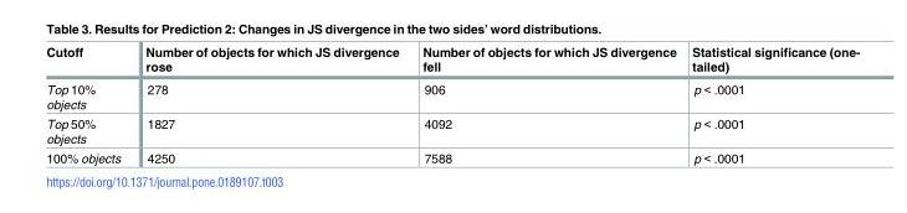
<table><thead><tr><td>Cutoff</td><td>Number of objects for which JS divergence rose</td><td>Number of objects for which JS divergence fell</td><td>Statistical significance (one- tailed)</td></tr></thead><tbody><tr><td>Top 10% objects</td><td>278</td><td>906</td><td>p &lt; .0001</td></tr><tr><td>Top 50% objects</td><td>1827</td><td>4092</td><td>p &lt; .0001</td></tr><tr><td>100% objects</td><td>4250</td><td>7588</td><td>p &lt; .0001</td></tr></tbody></table>